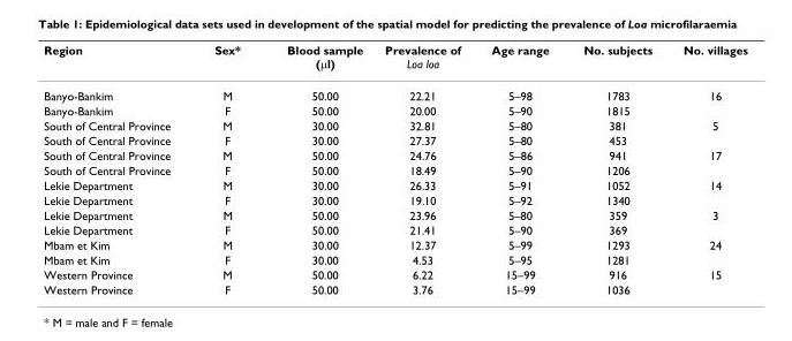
<table><thead><tr><td>Region</td><td>Sex*</td><td>Blood sample (µl)</td><td>Prevalence of Loa loa</td><td>Age range</td><td>No. subjects</td><td>No. villages</td></tr></thead><tbody><tr><td>Banyo-Bankim</td><td>M</td><td>50.00</td><td>22.21</td><td>5–98</td><td>1783</td><td>16</td></tr><tr><td>Banyo-Bankim</td><td>F</td><td>50.00</td><td>20.00</td><td>5–90</td><td>1815</td><td></td></tr><tr><td>South of Central Province</td><td>M</td><td>30.00</td><td>32.81</td><td>5–80</td><td>381</td><td>5</td></tr><tr><td>South of Central Province</td><td>F</td><td>30.00</td><td>27.37</td><td>5–80</td><td>453</td><td></td></tr><tr><td>South of Central Province</td><td>M</td><td>50.00</td><td>24.76</td><td>5–86</td><td>941</td><td>17</td></tr><tr><td>South of Central Province</td><td>F</td><td>50.00</td><td>18.49</td><td>5–90</td><td>1206</td><td></td></tr><tr><td>Lekie Department</td><td>M</td><td>30.00</td><td>26.33</td><td>5–91</td><td>1052</td><td>14</td></tr><tr><td>Lekie Department</td><td>F</td><td>30.00</td><td>19.10</td><td>5–92</td><td>1340</td><td></td></tr><tr><td>Lekie Department</td><td>M</td><td>50.00</td><td>23.96</td><td>5–80</td><td>359</td><td>3</td></tr><tr><td>Lekie Department</td><td>F</td><td>50.00</td><td>21.41</td><td>5–90</td><td>369</td><td></td></tr><tr><td>Mbam et Kim</td><td>M</td><td>30.00</td><td>12.37</td><td>5–99</td><td>1293</td><td>24</td></tr><tr><td>Mbam et Kim</td><td>F</td><td>30.00</td><td>4.53</td><td>5–95</td><td>1281</td><td></td></tr><tr><td>Western Province</td><td>M</td><td>50.00</td><td>6.22</td><td>15–99</td><td>916</td><td>15</td></tr><tr><td>Western Province</td><td>F</td><td>50.00</td><td>3.76</td><td>15–99</td><td>1036</td><td></td></tr></tbody></table>